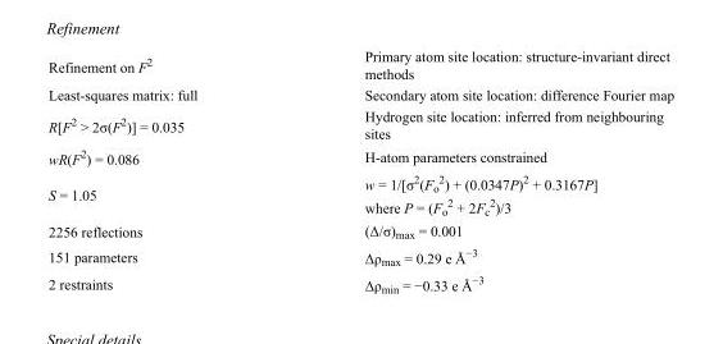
<table><tbody><tr><td>Refinement on F<sup>2</sup></td><td>Primary atom site location: structure-invariant direct methods</td></tr><tr><td>Least-squares matrix: full</td><td>Secondary atom site location: difference Fourier map</td></tr><tr><td>R[F<sup>2</sup> &gt; 2σ(F<sup>2</sup>)] = 0.035</td><td>Hydrogen site location: inferred from neighbouring sites</td></tr><tr><td>wR(F<sup>2</sup>) = 0.086</td><td>H-atom parameters constrained</td></tr><tr><td>S = 1.05</td><td>w = 1/[σ<sup>2</sup>(F<sub>o</sub> <sup>2</sup>) + (0.0347P)<sup>2</sup> + 0.3167P] where P = (F<sub>o</sub> <sup>2</sup> + 2F<sub>c</sub> <sup>2</sup>)/3</td></tr><tr><td>2256 reflections</td><td>(Δ/σ)<sub>max</sub> = 0.001</td></tr><tr><td>151 parameters</td><td>Δρ<sub>max</sub> = 0.29 e Å<sup>−3</sup></td></tr><tr><td>2 restraints</td><td>Δρ<sub>min</sub> = −0.33 e Å<sup>−3</sup></td></tr></tbody></table>